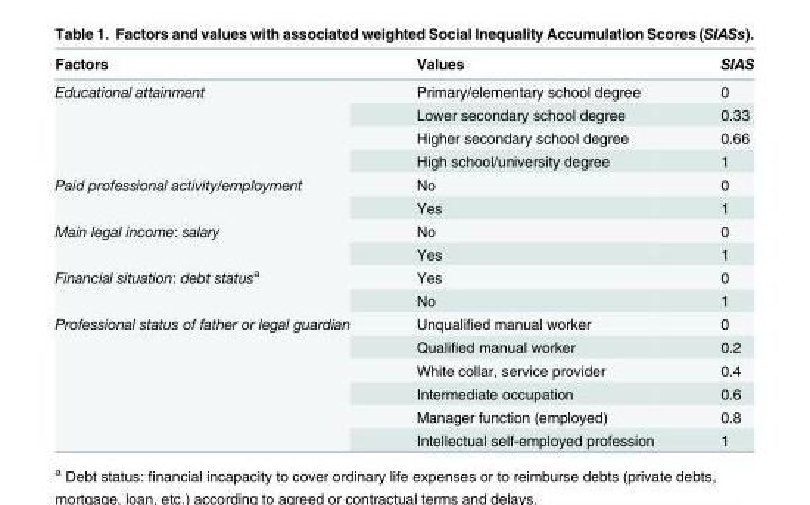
<table><thead><tr><td>Factors</td><td>Values</td><td>SIAS</td></tr></thead><tbody><tr><td rowspan="4">Educational attainment</td><td>Primary/elementary school degree</td><td>0</td></tr><tr><td>Lower secondary school degree</td><td>0.33</td></tr><tr><td>Higher secondary school degree</td><td>0.66</td></tr><tr><td>High school/university degree</td><td>1</td></tr><tr><td rowspan="2">Paid professional activity/employment</td><td>No</td><td>0</td></tr><tr><td>Yes</td><td>1</td></tr><tr><td rowspan="2">Main legal income: salary</td><td>No</td><td>0</td></tr><tr><td>Yes</td><td>1</td></tr><tr><td rowspan="2">Financial situation: debt status<sup>a</sup></td><td>Yes</td><td>0</td></tr><tr><td>No</td><td>1</td></tr><tr><td rowspan="6">Professional status of father or legal guardian</td><td>Unqualified manual worker</td><td>0</td></tr><tr><td>Qualified manual worker</td><td>0.2</td></tr><tr><td>White collar, service provider</td><td>0.4</td></tr><tr><td>Intermediate occupation</td><td>0.6</td></tr><tr><td>Manager function (employed)</td><td>0.8</td></tr><tr><td>Intellectual self-employed profession</td><td>1</td></tr></tbody></table>